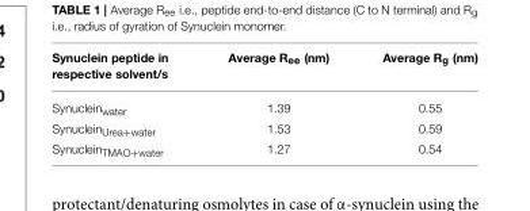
<table><thead><tr><td>Synuclein peptide in respective solvent/s</td><td>Average R<sub>ee</sub> (nm)</td><td>Average R<sub>g</sub> (nm)</td></tr></thead><tbody><tr><td>Synuclein<sub>water</sub></td><td>1.39</td><td>0.55</td></tr><tr><td>Synuclein<sub>Urea+water</sub></td><td>1.53</td><td>0.59</td></tr><tr><td>Synuclein<sub>TMAO+water</sub></td><td>1.27</td><td>0.54</td></tr></tbody></table>